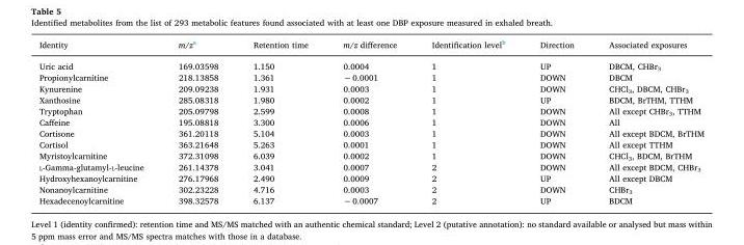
<table><thead><tr><td>Identity</td><td>m/z<sup>a</sup></td><td>Retention time</td><td>m/z difference</td><td>Identification level<sup>b</sup></td><td>Direction</td><td>Associated exposures</td></tr></thead><tbody><tr><td>Uric acid</td><td>169.03598</td><td>1.150</td><td>0.0004</td><td>1</td><td>UP</td><td>DBCM, CHBr<sub>3</sub></td></tr><tr><td>Propionylcarnitine</td><td>218.13858</td><td>1.361</td><td>−0.0001</td><td>1</td><td>DOWN</td><td>DBCM</td></tr><tr><td>Kynurenine</td><td>209.09238</td><td>1.931</td><td>0.0003</td><td>1</td><td>DOWN</td><td>CHCl<sub>3</sub>, DBCM, CHBr<sub>3</sub></td></tr><tr><td>Xanthosine</td><td>285.08318</td><td>1.980</td><td>0.0002</td><td>1</td><td>UP</td><td>BDCM, BrTHM, TTHM</td></tr><tr><td>Tryptophan</td><td>205.09798</td><td>2.599</td><td>0.0008</td><td>1</td><td>DOWN</td><td>All except CHBr<sub>3</sub>, TTHM</td></tr><tr><td>Caffeine</td><td>195.08818</td><td>3.300</td><td>0.0006</td><td>1</td><td>DOWN</td><td>All</td></tr><tr><td>Cortisone</td><td>361.20118</td><td>5.104</td><td>0.0003</td><td>1</td><td>DOWN</td><td>All except BDCM, BrTHM</td></tr><tr><td>Cortisol</td><td>363.21648</td><td>5.263</td><td>0.0001</td><td>1</td><td>DOWN</td><td>All except TTHM</td></tr><tr><td>Myristoylcarnitine</td><td>372.31098</td><td>6.039</td><td>0.0002</td><td>1</td><td>DOWN</td><td>CHCl<sub>3</sub>, BDCM, BrTHM</td></tr><tr><td>L-Gamma-glutamyl-L-leucine</td><td>261.14378</td><td>3.041</td><td>0.0007</td><td>2</td><td>DOWN</td><td>All except BDCM, CHBr<sub>3</sub></td></tr><tr><td>Hydroxyhexanoylcarnitine</td><td>276.17968</td><td>2.490</td><td>0.0009</td><td>2</td><td>UP</td><td>All except DBCM</td></tr><tr><td>Nonanoylcarnitine</td><td>302.23228</td><td>4.716</td><td>0.0003</td><td>2</td><td>DOWN</td><td>CHBr<sub>3</sub></td></tr><tr><td>Hexadecenoylcarnitine</td><td>398.32578</td><td>6.137</td><td>−0.0007</td><td>2</td><td>UP</td><td>BDCM</td></tr></tbody></table>